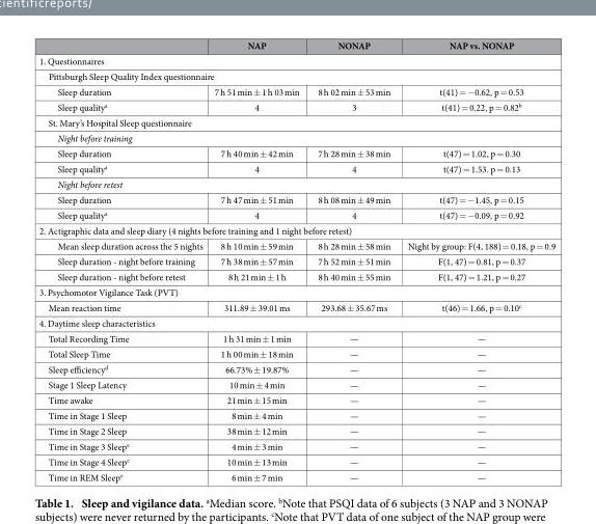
<table><thead><tr><td></td><td>NAP</td><td>NONAP</td><td>NAP vs. NONAP</td></tr></thead><tbody><tr><td colspan="4">1. Questionnaires</td></tr><tr><td colspan="4">Pittsburgh Sleep Quality Index questionnaire</td></tr><tr><td>Sleep duration</td><td>7 h 51 min ± 1 h 03 min</td><td>8 h 02 min ± 53 min</td><td>t(41) = − 0.62, p = 0.53</td></tr><tr><td>Sleep quality<sup>a</sup></td><td>4</td><td>3</td><td>t(41) = 0.22, p = 0.82<sup>b</sup></td></tr><tr><td colspan="4">St. Mary’s Hospital Sleep questionnaire</td></tr><tr><td colspan="4">Night before training</td></tr><tr><td>Sleep duration</td><td>7 h 40 min ± 42 min</td><td>7 h 28 min ± 38 min</td><td>t(47) = 1.02, p = 0.30</td></tr><tr><td>Sleep quality<sup>a</sup></td><td>4</td><td>4</td><td>t(47) = 1.53. p = 0.13</td></tr><tr><td colspan="4">Night before retest</td></tr><tr><td>Sleep duration</td><td>7 h 47 min ± 51 min</td><td>8 h 08 min ± 49 min</td><td>t(47) = − 1.45, p = 0.15</td></tr><tr><td>Sleep quality<sup>a</sup></td><td>4</td><td>4</td><td>t(47) = − 0.09, p = 0.92</td></tr><tr><td colspan="4">2. Actigraphic data and sleep diary (4 nights before training and 1 night before retest)</td></tr><tr><td>Mean sleep duration across the 5 nights</td><td>8 h 10 min ± 59 min</td><td>8 h 28 min ± 58 min</td><td>Night by group: F(4, 188) = 0.18, p = 0.9</td></tr><tr><td>Sleep duration - night before training</td><td>7 h 38 min ± 57 min</td><td>7 h 52 min ± 51 min</td><td>F(1, 47) = 0.81, p = 0.37</td></tr><tr><td>Sleep duration - night before retest</td><td>8 h 21 min ± 1 h</td><td>8 h 40 min ± 55 min</td><td>F(1, 47) = 1.21, p = 0.27</td></tr><tr><td colspan="4">3. Psychomotor Vigilance Task (PVT)</td></tr><tr><td>Mean reaction time</td><td>311.89 ± 39.01 ms</td><td>293.68 ± 35.67 ms</td><td>t(46) = 1.66, p = 0.10<sup>c</sup></td></tr><tr><td colspan="4">4. Daytime sleep characteristics</td></tr><tr><td>Total Recording Time</td><td>1 h 31 min ± 1 min</td><td>—</td><td>—</td></tr><tr><td>Total Sleep Time</td><td>1 h 00 min ± 18 min</td><td>—</td><td>—</td></tr><tr><td>Sleep efficiency<sup>d</sup></td><td>66.73% ± 19.87%</td><td>—</td><td>—</td></tr><tr><td>Stage 1 Sleep Latency</td><td>10 min ± 4 min</td><td>—</td><td>—</td></tr><tr><td>Time awake</td><td>21 min ± 15 min</td><td>—</td><td>—</td></tr><tr><td>Time in Stage 1 Sleep</td><td>8 min ± 4 min</td><td>—</td><td>—</td></tr><tr><td>Time in Stage 2 Sleep</td><td>38 min ± 12 min</td><td>—</td><td>—</td></tr><tr><td>Time in Stage 3 Sleep<sup>e</sup></td><td>4 min ± 3 min</td><td>—</td><td>—</td></tr><tr><td>Time in Stage 4 Sleep<sup>e</sup></td><td>10 min ± 13 min</td><td>—</td><td>—</td></tr><tr><td>Time in REM Sleep<sup>e</sup></td><td>6 min ± 7 min</td><td>—</td><td>—</td></tr></tbody></table>